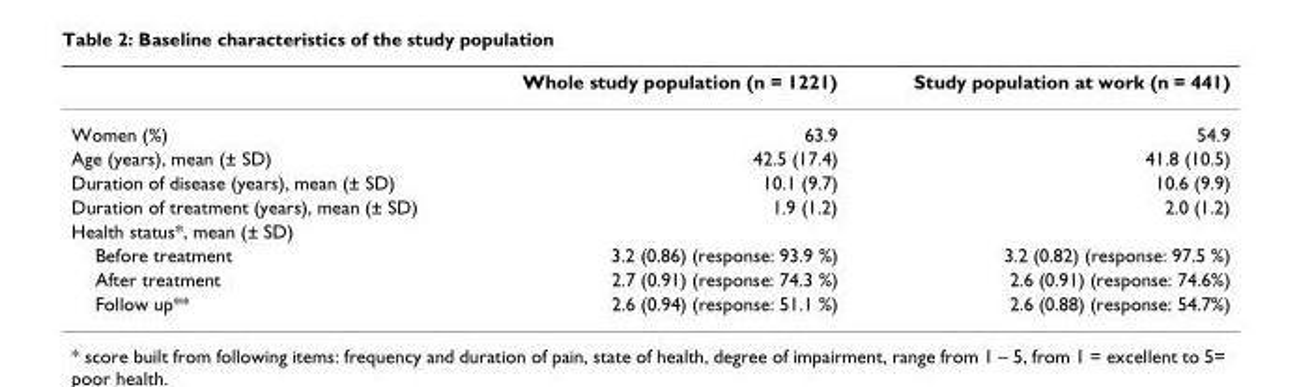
<table><thead><tr><td></td><td>Whole study population (n = 1221)</td><td>Study population at work (n = 441)</td></tr></thead><tbody><tr><td>Women (%)</td><td>63.9</td><td>54.9</td></tr><tr><td>Age (years), mean (± SD)</td><td>42.5 (17.4)</td><td>41.8 (10.5)</td></tr><tr><td>Duration of disease (years), mean (± SD)</td><td>10.1 (9.7)</td><td>10.6 (9.9)</td></tr><tr><td>Duration of treatment (years), mean (± SD)</td><td>1.9 (1.2)</td><td>2.0 (1.2)</td></tr><tr><td colspan="3">Health status*, mean (± SD)</td></tr><tr><td>Before treatment</td><td>3.2 (0.86) (response: 93.9 %)</td><td>3.2 (0.82) (response: 97.5 %)</td></tr><tr><td>After treatment</td><td>2.7 (0.91) (response: 74.3 %)</td><td>2.6 (0.91) (response: 74.6%)</td></tr><tr><td>Follow up**</td><td>2.6 (0.94) (response: 51.1 %)</td><td>2.6 (0.88) (response: 54.7%)</td></tr></tbody></table>